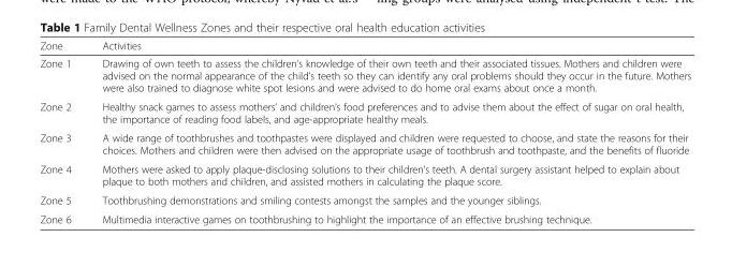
<table><thead><tr><td>Zone</td><td>Activities</td></tr></thead><tbody><tr><td>Zone 1</td><td>Drawing of own teeth to assess the children’s knowledge of their own teeth and their associated tissues. Mothers and children were advised on the normal appearance of the child’s teeth so they can identify any oral problems should they occur in the future. Mothers were also trained to diagnose white spot lesions and were advised to do home oral exams about once a month.</td></tr><tr><td>Zone 2</td><td>Healthy snack games to assess mothers’ and children’s food preferences and to advise them about the effect of sugar on oral health, the importance of reading food labels, and age-appropriate healthy meals.</td></tr><tr><td>Zone 3</td><td>A wide range of toothbrushes and toothpastes were displayed and children were requested to choose, and state the reasons for their choices. Mothers and children were then advised on the appropriate usage of toothbrush and toothpaste, and the benefits of fluoride</td></tr><tr><td>Zone 4</td><td>Mothers were asked to apply plaque-disclosing solutions to their children’s teeth. A dental surgery assistant helped to explain about plaque to both mothers and children, and assisted mothers in calculating the plaque score.</td></tr><tr><td>Zone 5</td><td>Toothbrushing demonstrations and smiling contests amongst the samples and the younger siblings.</td></tr><tr><td>Zone 6</td><td>Multimedia interactive games on toothbrushing to highlight the importance of an effective brushing technique.</td></tr></tbody></table>